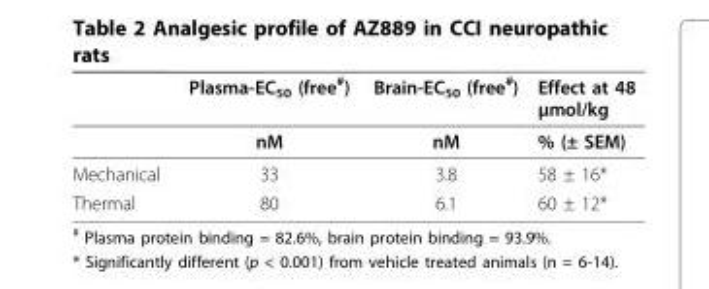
<table><thead><tr><td></td><td>Plasma-EC<sub>50</sub> (free<sup>#</sup>)</td><td>Brain-EC<sub>50</sub> (free<sup>#</sup>)</td><td>Effect at 48 μmol/kg</td></tr></thead><tbody><tr><td></td><td>nM</td><td>nM</td><td>% (± SEM)</td></tr><tr><td>Mechanical</td><td>33</td><td>3.8</td><td>58 ± 16*</td></tr><tr><td>Thermal</td><td>80</td><td>6.1</td><td>60 ± 12*</td></tr></tbody></table>